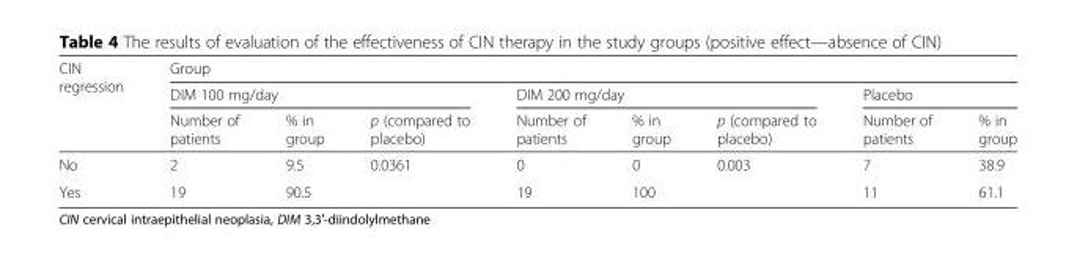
<table><thead><tr><td rowspan="3">CIN regression</td><td colspan="8">Group</td></tr><tr><td colspan="3">DIM 100 mg/day</td><td colspan="3">DIM 200 mg/day</td><td colspan="2">Placebo</td></tr><tr><td>Number of patients</td><td>% in group</td><td>p (compared to placebo)</td><td>Number of patients</td><td>% in group</td><td>p (compared to placebo)</td><td>Number of patients</td><td>% in group</td></tr></thead><tbody><tr><td>No</td><td>2</td><td>9.5</td><td>0.0361</td><td>0</td><td>0</td><td>0.003</td><td>7</td><td>38.9</td></tr><tr><td>Yes</td><td>19</td><td>90.5</td><td></td><td>19</td><td>100</td><td></td><td>11</td><td>61.1</td></tr></tbody></table>